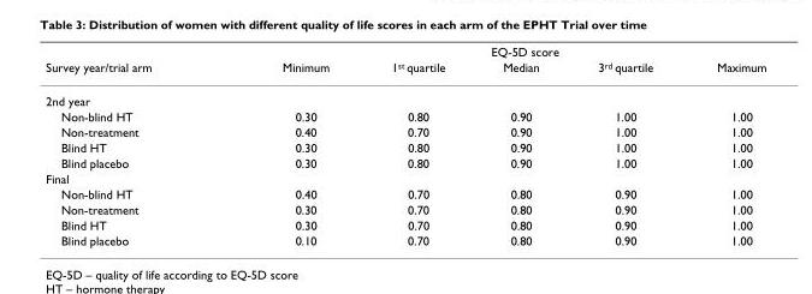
<table><thead><tr><td rowspan="2">Survey year/trial arm</td><td colspan="5">EQ-5D score</td></tr><tr><td>Minimum</td><td>1<sup>st</sup> quartile</td><td>Median</td><td>3<sup>rd</sup> quartile</td><td>Maximum</td></tr></thead><tbody><tr><td colspan="6">2nd year</td></tr><tr><td>Non-blind HT</td><td>0.30</td><td>0.80</td><td>0.90</td><td>1.00</td><td>1.00</td></tr><tr><td>Non-treatment</td><td>0.40</td><td>0.70</td><td>0.90</td><td>1.00</td><td>1.00</td></tr><tr><td>Blind HT</td><td>0.30</td><td>0.80</td><td>0.90</td><td>1.00</td><td>1.00</td></tr><tr><td>Blind placebo</td><td>0.30</td><td>0.80</td><td>0.90</td><td>1.00</td><td>1.00</td></tr><tr><td colspan="6">Final</td></tr><tr><td>Non-blind HT</td><td>0.40</td><td>0.70</td><td>0.80</td><td>0.90</td><td>1.00</td></tr><tr><td>Non-treatment</td><td>0.30</td><td>0.70</td><td>0.80</td><td>0.90</td><td>1.00</td></tr><tr><td>Blind HT</td><td>0.30</td><td>0.70</td><td>0.80</td><td>0.90</td><td>1.00</td></tr><tr><td>Blind placebo</td><td>0.10</td><td>0.70</td><td>0.80</td><td>0.90</td><td>1.00</td></tr></tbody></table>